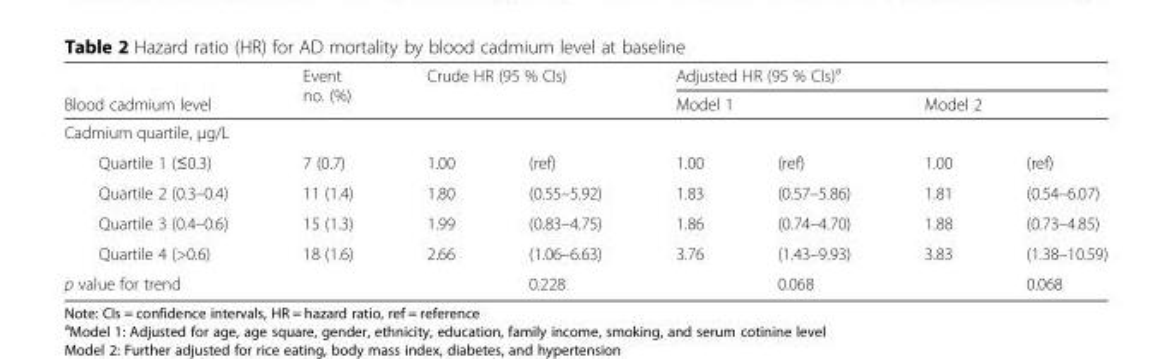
<table><thead><tr><td rowspan="3">Blood cadmium level Cadmium quartile, μg/L</td><td rowspan="3">Event no. (%)</td><td rowspan="2" colspan="2">Crude HR (95 % CIs)</td><td colspan="4">Adjusted HR (95 % CIs)<sup>a</sup></td></tr><tr><td colspan="2">Model 1</td><td colspan="2">Model 2</td></tr><tr><td></td><td></td><td></td><td></td><td></td><td></td></tr></thead><tbody><tr><td>Quartile 1 (≤0.3)</td><td>7 (0.7)</td><td>1.00</td><td>(ref)</td><td>1.00</td><td>(ref)</td><td>1.00</td><td>(ref)</td></tr><tr><td>Quartile 2 (0.3–0.4)</td><td>11 (1.4)</td><td>1.80</td><td>(0.55–5.92)</td><td>1.83</td><td>(0.57–5.86)</td><td>1.81</td><td>(0.54–6.07)</td></tr><tr><td>Quartile 3 (0.4–0.6)</td><td>15 (1.3)</td><td>1.99</td><td>(0.83–4.75)</td><td>1.86</td><td>(0.74–4.70)</td><td>1.88</td><td>(0.73–4.85)</td></tr><tr><td>Quartile 4 (&gt;0.6)</td><td>18 (1.6)</td><td>2.66</td><td>(1.06–6.63)</td><td>3.76</td><td>(1.43–9.93)</td><td>3.83</td><td>(1.38–10.59)</td></tr><tr><td>p value for trend</td><td></td><td></td><td>0.228</td><td></td><td>0.068</td><td></td><td>0.068</td></tr></tbody></table>